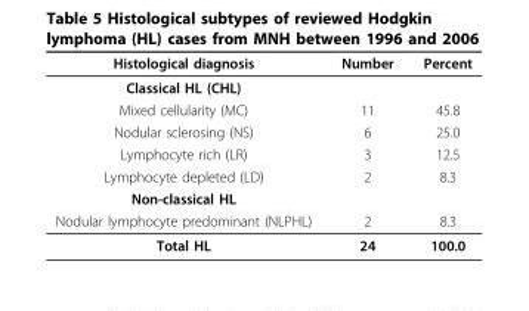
<table><thead><tr><td>Histological diagnosis</td><td>Number</td><td>Percent</td></tr></thead><tbody><tr><td colspan="3">Classical HL (CHL)</td></tr><tr><td>Mixed cellularity (MC)</td><td>11</td><td>45.8</td></tr><tr><td>Nodular sclerosing (NS)</td><td>6</td><td>25.0</td></tr><tr><td>Lymphocyte rich (LR)</td><td>3</td><td>12.5</td></tr><tr><td>Lymphocyte depleted (LD)</td><td>2</td><td>8.3</td></tr><tr><td colspan="3">Non-classical HL</td></tr><tr><td>Nodular lymphocyte predominant (NLPHL)</td><td>2</td><td>8.3</td></tr><tr><td>Total HL</td><td>24</td><td>100.0</td></tr></tbody></table>